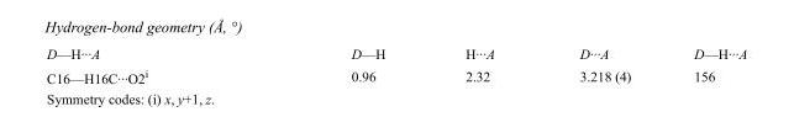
<table><tbody><tr><td>D—H···A</td><td>D—H</td><td>H···A</td><td>D···A</td><td>D—H···A</td></tr><tr><td>C16—H16C···O2<sup>i</sup></td><td>0.96</td><td>2.32</td><td>3.218 (4)</td><td>156</td></tr></tbody></table>